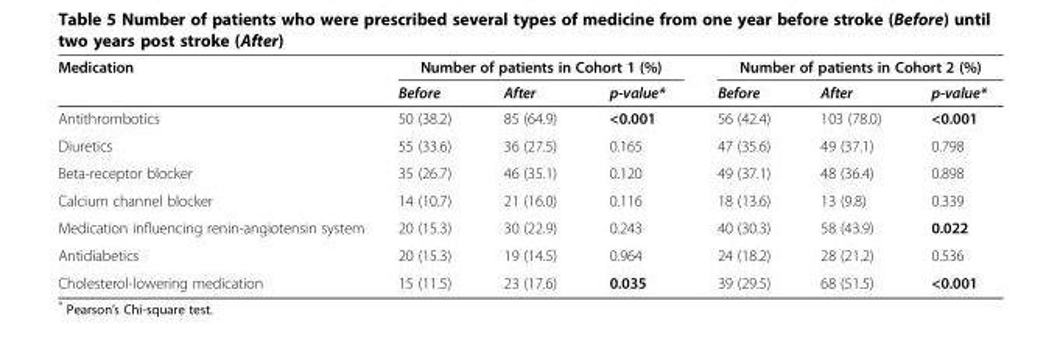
<table><thead><tr><td rowspan="2">Medication</td><td colspan="3">Number of patients in Cohort 1 (%)</td><td colspan="3">Number of patients in Cohort 2 (%)</td></tr><tr><td>Before</td><td>After</td><td>p-value*</td><td>Before</td><td>After</td><td>p-value*</td></tr></thead><tbody><tr><td>Antithrombotics</td><td>50 (38.2)</td><td>85 (64.9)</td><td>&lt;0.001</td><td>56 (42.4)</td><td>103 (78.0)</td><td>&lt;0.001</td></tr><tr><td>Diuretics</td><td>55 (33.6)</td><td>36 (27.5)</td><td>0.165</td><td>47 (35.6)</td><td>49 (37.1)</td><td>0.798</td></tr><tr><td>Beta-receptor blocker</td><td>35 (26.7)</td><td>46 (35.1)</td><td>0.120</td><td>49 (37.1)</td><td>48 (36.4)</td><td>0.898</td></tr><tr><td>Calcium channel blocker</td><td>14 (10.7)</td><td>21 (16.0)</td><td>0.116</td><td>18 (13.6)</td><td>13 (9.8)</td><td>0.339</td></tr><tr><td>Medication influencing renin-angiotensin system</td><td>20 (15.3)</td><td>30 (22.9)</td><td>0.243</td><td>40 (30.3)</td><td>58 (43.9)</td><td>0.022</td></tr><tr><td>Antidiabetics</td><td>20 (15.3)</td><td>19 (14.5)</td><td>0.964</td><td>24 (18.2)</td><td>28 (21.2)</td><td>0.536</td></tr><tr><td>Cholesterol-lowering medication</td><td>15 (11.5)</td><td>23 (17.6)</td><td>0.035</td><td>39 (29.5)</td><td>68 (51.5)</td><td>&lt;0.001</td></tr></tbody></table>